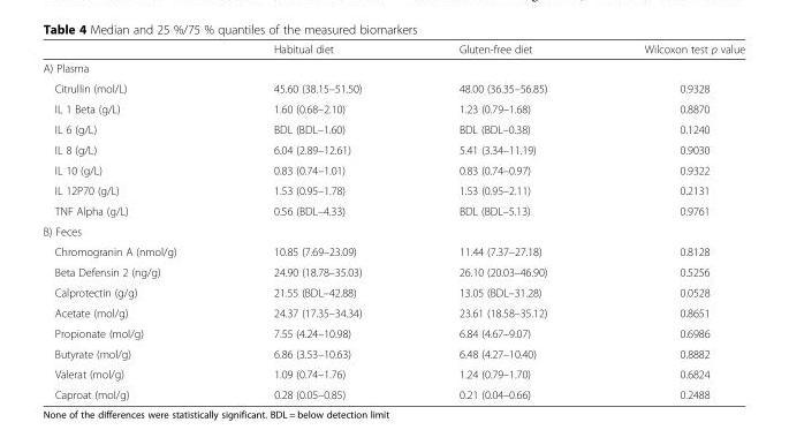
<table><thead><tr><td></td><td>Habitual diet</td><td>Gluten-free diet</td><td>Wilcoxon test p value</td></tr></thead><tbody><tr><td colspan="4">A) Plasma</td></tr><tr><td>Citrullin (mol/L)</td><td>45.60 (38.15–51.50)</td><td>48.00 (36.35–56.85)</td><td>0.9328</td></tr><tr><td>IL 1 Beta (g/L)</td><td>1.60 (0.68–2.10)</td><td>1.23 (0.79–1.68)</td><td>0.8870</td></tr><tr><td>IL 6 (g/L)</td><td>BDL (BDL–1.60)</td><td>BDL (BDL–0.38)</td><td>0.1240</td></tr><tr><td>IL 8 (g/L)</td><td>6.04 (2.89–12.61)</td><td>5.41 (3.34–11.19)</td><td>0.9030</td></tr><tr><td>IL 10 (g/L)</td><td>0.83 (0.74–1.01)</td><td>0.83 (0.74–0.97)</td><td>0.9322</td></tr><tr><td>IL 12P70 (g/L)</td><td>1.53 (0.95–1.78)</td><td>1.53 (0.95–2.11)</td><td>0.2131</td></tr><tr><td>TNF Alpha (g/L)</td><td>0.56 (BDL–4.33)</td><td>BDL (BDL–5.13)</td><td>0.9761</td></tr><tr><td colspan="4">B) Feces</td></tr><tr><td>Chromogranin A (nmol/g)</td><td>10.85 (7.69–23.09)</td><td>11.44 (7.37–27.18)</td><td>0.8128</td></tr><tr><td>Beta Defensin 2 (ng/g)</td><td>24.90 (18.78–35.03)</td><td>26.10 (20.03–46.90)</td><td>0.5256</td></tr><tr><td>Calprotectin (g/g)</td><td>21.55 (BDL–42.88)</td><td>13.05 (BDL–31.28)</td><td>0.0528</td></tr><tr><td>Acetate (mol/g)</td><td>24.37 (17.35–34.34)</td><td>23.61 (18.58–35.12)</td><td>0.8651</td></tr><tr><td>Propionate (mol/g)</td><td>7.55 (4.24–10.98)</td><td>6.84 (4.67–9.07)</td><td>0.6986</td></tr><tr><td>Butyrate (mol/g)</td><td>6.86 (3.53–10.63)</td><td>6.48 (4.27–10.40)</td><td>0.8882</td></tr><tr><td>Valerat (mol/g)</td><td>1.09 (0.74–1.76)</td><td>1.24 (0.79–1.70)</td><td>0.6824</td></tr><tr><td>Caproat (mol/g)</td><td>0.28 (0.05–0.85)</td><td>0.21 (0.04–0.66)</td><td>0.2488</td></tr></tbody></table>